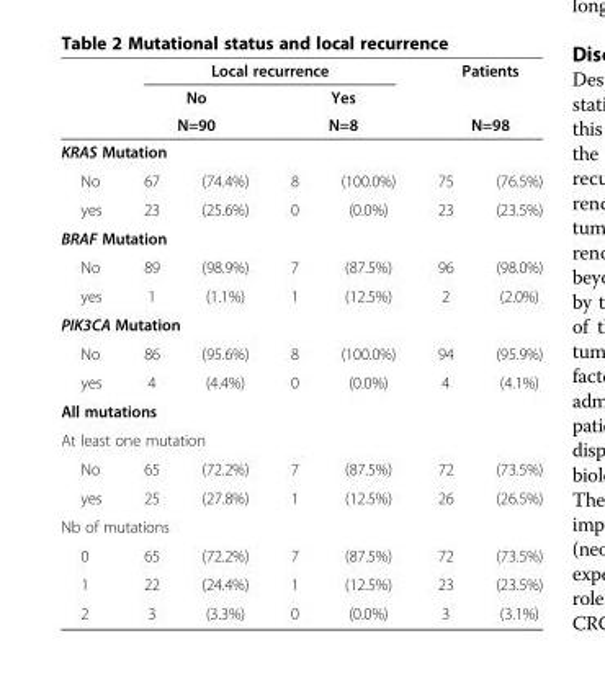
<table><thead><tr><td rowspan="3"></td><td colspan="4">Local recurrence</td><td rowspan="3" colspan="2">Patients N=98</td></tr><tr><td rowspan="2" colspan="2">No N=90</td><td rowspan="2" colspan="2">Yes N=8</td></tr><tr></tr><tr><td colspan="7">KRAS Mutation</td></tr><tr><td>No</td><td>67</td><td>(74.4%)</td><td>8</td><td>(100.0%)</td><td>75</td><td>(76.5%)</td></tr></thead><tbody><tr><td>yes</td><td>23</td><td>(25.6%)</td><td>0</td><td>(0.0%)</td><td>23</td><td>(23.5%)</td></tr><tr><td colspan="7">BRAF Mutation</td></tr><tr><td>No</td><td>89</td><td>(98.9%)</td><td>7</td><td>(87.5%)</td><td>96</td><td>(98.0%)</td></tr><tr><td>yes</td><td>1</td><td>(1.1%)</td><td>1</td><td>(12.5%)</td><td>2</td><td>(2.0%)</td></tr><tr><td colspan="7">PIK3CA Mutation</td></tr><tr><td>No</td><td>86</td><td>(95.6%)</td><td>8</td><td>(100.0%)</td><td>94</td><td>(95.9%)</td></tr><tr><td>yes</td><td>4</td><td>(4.4%)</td><td>0</td><td>(0.0%)</td><td>4</td><td>(4.1%)</td></tr><tr><td colspan="7">All mutations</td></tr><tr><td colspan="7">At least one mutation</td></tr><tr><td>No</td><td>65</td><td>(72.2%)</td><td>7</td><td>(87.5%)</td><td>72</td><td>(73.5%)</td></tr><tr><td>yes</td><td>25</td><td>(27.8%)</td><td>1</td><td>(12.5%)</td><td>26</td><td>(26.5%)</td></tr><tr><td colspan="7">Nb of mutations</td></tr><tr><td>0</td><td>65</td><td>(72.2%)</td><td>7</td><td>(87.5%)</td><td>72</td><td>(73.5%)</td></tr><tr><td>1</td><td>22</td><td>(24.4%)</td><td>1</td><td>(12.5%)</td><td>23</td><td>(23.5%)</td></tr><tr><td>2</td><td>3</td><td>(3.3%)</td><td>0</td><td>(0.0%)</td><td>3</td><td>(3.1%)</td></tr></tbody></table>